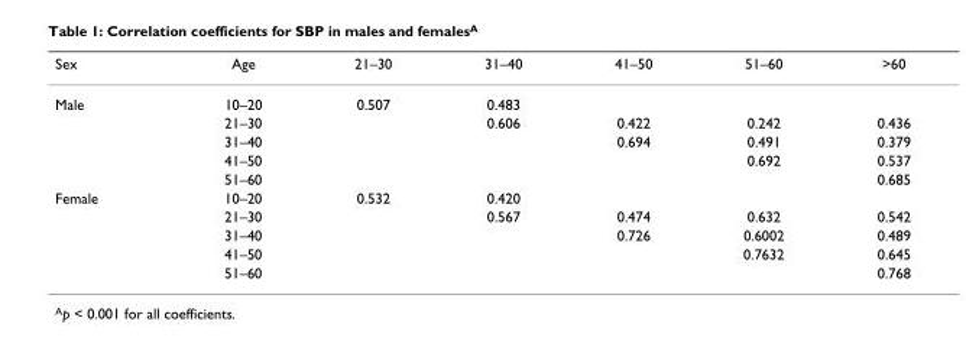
<table><thead><tr><td>Sex</td><td>Age</td><td>21–30</td><td>31–40</td><td>41–50</td><td>51–60</td><td>&gt;60</td></tr></thead><tbody><tr><td rowspan="5">Male</td><td>10–20</td><td>0.507</td><td>0.483</td><td></td><td></td><td></td></tr><tr><td>21–30</td><td></td><td>0.606</td><td>0.422</td><td>0.242</td><td>0.436</td></tr><tr><td>31–40</td><td></td><td></td><td>0.694</td><td>0.491</td><td>0.379</td></tr><tr><td>41–50</td><td></td><td></td><td></td><td>0.692</td><td>0.537</td></tr><tr><td>51–60</td><td></td><td></td><td></td><td></td><td>0.685</td></tr><tr><td rowspan="5">Female</td><td>10–20</td><td>0.532</td><td>0.420</td><td></td><td></td><td></td></tr><tr><td>21–30</td><td></td><td>0.567</td><td>0.474</td><td>0.632</td><td>0.542</td></tr><tr><td>31–40</td><td></td><td></td><td>0.726</td><td>0.6002</td><td>0.489</td></tr><tr><td>41–50</td><td></td><td></td><td></td><td>0.7632</td><td>0.645</td></tr><tr><td>51–60</td><td></td><td></td><td></td><td></td><td>0.768</td></tr></tbody></table>